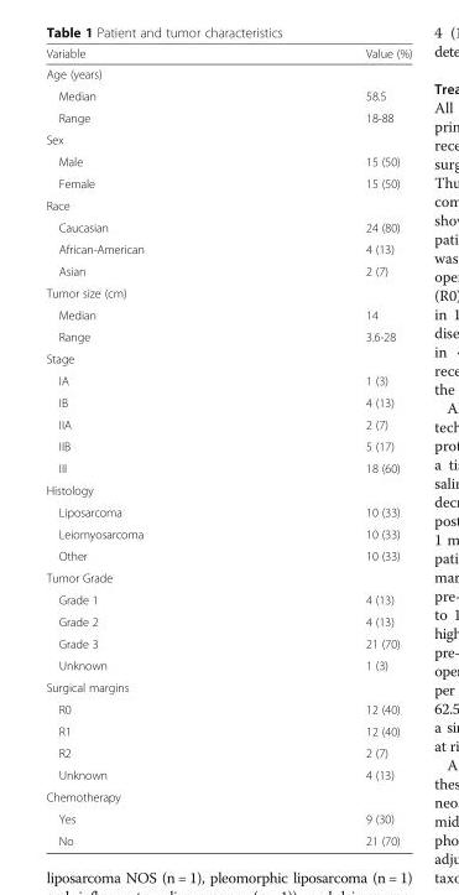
<table><thead><tr><td>Variable</td><td>Value (%)</td></tr></thead><tbody><tr><td colspan="2">Age (years)</td></tr><tr><td>Median</td><td>58.5</td></tr><tr><td>Range</td><td>18-88</td></tr><tr><td colspan="2">Sex</td></tr><tr><td>Male</td><td>15 (50)</td></tr><tr><td>Female</td><td>15 (50)</td></tr><tr><td colspan="2">Race</td></tr><tr><td>Caucasian</td><td>24 (80)</td></tr><tr><td>African-American</td><td>4 (13)</td></tr><tr><td>Asian</td><td>2 (7)</td></tr><tr><td colspan="2">Tumor size (cm)</td></tr><tr><td>Median</td><td>14</td></tr><tr><td>Range</td><td>3.6-28</td></tr><tr><td colspan="2">Stage</td></tr><tr><td>IA</td><td>1 (3)</td></tr><tr><td>IB</td><td>4 (13)</td></tr><tr><td>IIA</td><td>2 (7)</td></tr><tr><td>IIB</td><td>5 (17)</td></tr><tr><td>III</td><td>18 (60)</td></tr><tr><td colspan="2">Histology</td></tr><tr><td>Liposarcoma</td><td>10 (33)</td></tr><tr><td>Leiomyosarcoma</td><td>10 (33)</td></tr><tr><td>Other</td><td>10 (33)</td></tr><tr><td colspan="2">Tumor Grade</td></tr><tr><td>Grade 1</td><td>4 (13)</td></tr><tr><td>Grade 2</td><td>4 (13)</td></tr><tr><td>Grade 3</td><td>21 (70)</td></tr><tr><td>Unknown</td><td>1 (3)</td></tr><tr><td colspan="2">Surgical margins</td></tr><tr><td>R0</td><td>12 (40)</td></tr><tr><td>R1</td><td>12 (40)</td></tr><tr><td>R2</td><td>2 (7)</td></tr><tr><td>Unknown</td><td>4 (13)</td></tr><tr><td colspan="2">Chemotherapy</td></tr><tr><td>Yes</td><td>9 (30)</td></tr><tr><td>No</td><td>21 (70)</td></tr></tbody></table>